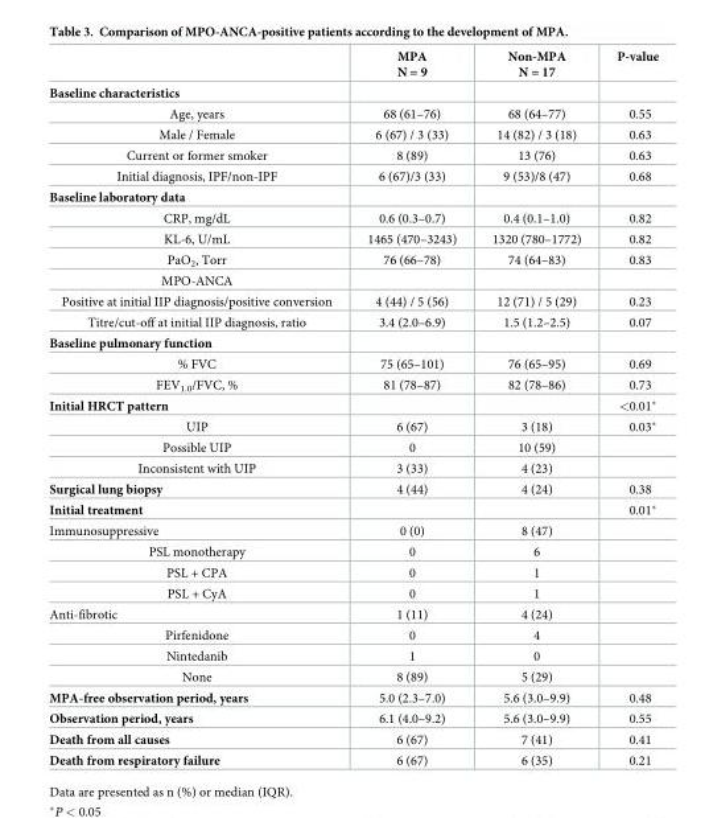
<table><thead><tr><td></td><td>MPA N = 9</td><td>Non-MPA N = 17</td><td>P-value</td></tr></thead><tbody><tr><td colspan="4">Baseline characteristics</td></tr><tr><td>Age, years</td><td>68 (61–76)</td><td>68 (64–77)</td><td>0.55</td></tr><tr><td>Male / Female</td><td>6 (67) / 3 (33)</td><td>14 (82) / 3 (18)</td><td>0.63</td></tr><tr><td>Current or former smoker</td><td>8 (89)</td><td>13 (76)</td><td>0.63</td></tr><tr><td>Initial diagnosis, IPF/non-IPF</td><td>6 (67)/3 (33)</td><td>9 (53)/8 (47)</td><td>0.68</td></tr><tr><td colspan="4">Baseline laboratory data</td></tr><tr><td>CRP, mg/dL</td><td>0.6 (0.3–0.7)</td><td>0.4 (0.1–1.0)</td><td>0.82</td></tr><tr><td>KL-6, U/mL</td><td>1465 (470–3243)</td><td>1320 (780–1772)</td><td>0.82</td></tr><tr><td>PaO<sub>2</sub>, Torr</td><td>76 (66–78)</td><td>74 (64–83)</td><td>0.83</td></tr><tr><td colspan="4">MPO-ANCA</td></tr><tr><td>Positive at initial IIP diagnosis/positive conversion</td><td>4 (44) / 5 (56)</td><td>12 (71) / 5 (29)</td><td>0.23</td></tr><tr><td>Titre/cut-off at initial IIP diagnosis, ratio</td><td>3.4 (2.0–6.9)</td><td>1.5 (1.2–2.5)</td><td>0.07</td></tr><tr><td colspan="4">Baseline pulmonary function</td></tr><tr><td>% FVC</td><td>75 (65–101)</td><td>76 (65–95)</td><td>0.69</td></tr><tr><td>FEV<sub>1.0</sub>/FVC, %</td><td>81 (78–87)</td><td>82 (78–86)</td><td>0.73</td></tr><tr><td>Initial HRCT pattern</td><td></td><td></td><td>&lt;0.01*</td></tr><tr><td>UIP</td><td>6 (67)</td><td>3 (18)</td><td>0.03*</td></tr><tr><td>Possible UIP</td><td>0</td><td>10 (59)</td><td></td></tr><tr><td>Inconsistent with UIP</td><td>3 (33)</td><td>4 (23)</td><td></td></tr><tr><td>Surgical lung biopsy</td><td>4 (44)</td><td>4 (24)</td><td>0.38</td></tr><tr><td>Initial treatment</td><td></td><td></td><td>0.01*</td></tr><tr><td>Immunosuppressive</td><td>0 (0)</td><td>8 (47)</td><td></td></tr><tr><td>PSL monotherapy</td><td>0</td><td>6</td><td></td></tr><tr><td>PSL + CPA</td><td>0</td><td>1</td><td></td></tr><tr><td>PSL + CyA</td><td>0</td><td>1</td><td></td></tr><tr><td>Anti-fibrotic</td><td>1 (11)</td><td>4 (24)</td><td></td></tr><tr><td>Pirfenidone</td><td>0</td><td>4</td><td></td></tr><tr><td>Nintedanib</td><td>1</td><td>0</td><td></td></tr><tr><td>None</td><td>8 (89)</td><td>5 (29)</td><td></td></tr><tr><td>MPA-free observation period, years</td><td>5.0 (2.3–7.0)</td><td>5.6 (3.0–9.9)</td><td>0.48</td></tr><tr><td>Observation period, years</td><td>6.1 (4.0–9.2)</td><td>5.6 (3.0–9.9)</td><td>0.55</td></tr><tr><td>Death from all causes</td><td>6 (67)</td><td>7 (41)</td><td>0.41</td></tr><tr><td>Death from respiratory failure</td><td>6 (67)</td><td>6 (35)</td><td>0.21</td></tr></tbody></table>